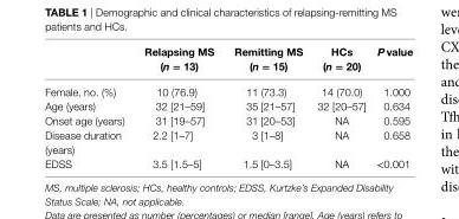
<table><thead><tr><td></td><td>relapsing Ms (n = 13)</td><td>remitting Ms (n = 15)</td><td>hcs (n = 20)</td><td>P value</td></tr></thead><tbody><tr><td>Female, no. (%)</td><td>10 (76.9)</td><td>11 (73.3)</td><td>14 (70.0)</td><td>1.000</td></tr><tr><td>Age (years)</td><td>32 [21–59]</td><td>35 [21–57]</td><td>32 [20–57]</td><td>0.634</td></tr><tr><td>Onset age (years)</td><td>31 [19–57]</td><td>31 [20–53]</td><td>NA</td><td>0.595</td></tr><tr><td>Disease duration (years)</td><td>2.2 [1–7]</td><td>3 [1–8]</td><td>NA</td><td>0.658</td></tr><tr><td>EDSS</td><td>3.5 [1.5–5]</td><td>1.5 [0–3.5]</td><td>NA</td><td>&lt;0.001</td></tr></tbody></table>